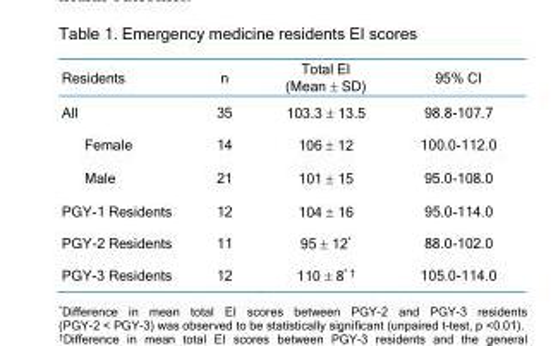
<table><thead><tr><td>Residents</td><td>n</td><td>Total EI (Mean ± SD)</td><td>95% CI</td></tr></thead><tbody><tr><td>All</td><td>35</td><td>103.3 ± 13.5</td><td>98.8-107.7</td></tr><tr><td>Female</td><td>14</td><td>106 ± 12</td><td>100.0-112.0</td></tr><tr><td>Male</td><td>21</td><td>101 ± 15</td><td>95.0-108.0</td></tr><tr><td>PGY-1 Residents</td><td>12</td><td>104 ± 16</td><td>95.0-114.0</td></tr><tr><td>PGY-2 Residents</td><td>11</td><td>95 ± 12*</td><td>88.0-102.0</td></tr><tr><td>PGY-3 Residents</td><td>12</td><td>110 ± 8<sup>* †</sup></td><td>105.0-114.0</td></tr></tbody></table>